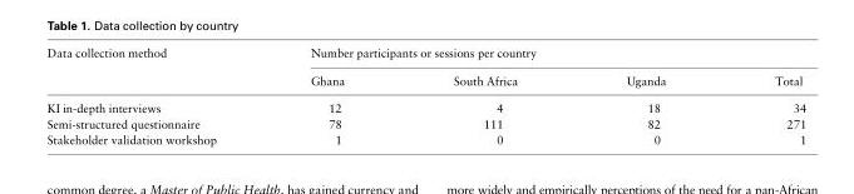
<table><thead><tr><td rowspan="2">Data collection method</td><td colspan="4">Number participants or sessions per country</td></tr><tr><td>Ghana</td><td>South Africa</td><td>Uganda</td><td>Total</td></tr></thead><tbody><tr><td>KI in-depth interviews</td><td>12</td><td>4</td><td>18</td><td>34</td></tr><tr><td>Semi-structured questionnaire</td><td>78</td><td>111</td><td>82</td><td>271</td></tr><tr><td>Stakeholder validation workshop</td><td>1</td><td>0</td><td>0</td><td>1</td></tr></tbody></table>